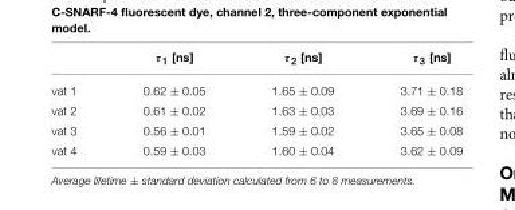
<table><thead><tr><td></td><td>τ<sub>1</sub> [ns]</td><td>τ<sub>2</sub> [ns]</td><td>τ<sub>3</sub> [ns]</td></tr></thead><tbody><tr><td>vat 1</td><td>0.62 ± 0.05</td><td>1.65 ± 0.09</td><td>3.71 ± 0.18</td></tr><tr><td>vat 2</td><td>0.61 ± 0.02</td><td>1.63 ± 0.03</td><td>3.69 ± 0.16</td></tr><tr><td>vat 3</td><td>0.56 ± 0.01</td><td>1.59 ± 0.02</td><td>3.65 ± 0.08</td></tr><tr><td>vat 4</td><td>0.59 ± 0.03</td><td>1.60 ± 0.04</td><td>3.62 ± 0.09</td></tr></tbody></table>